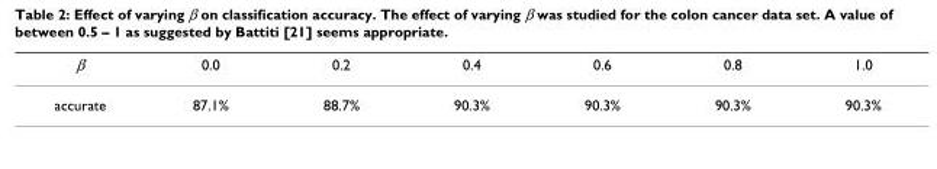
<table><thead><tr><td>β</td><td>0.0</td><td>0.2</td><td>0.4</td><td>0.6</td><td>0.8</td><td>1.0</td></tr></thead><tbody><tr><td>accurate</td><td>87.1%</td><td>88.7%</td><td>90.3%</td><td>90.3%</td><td>90.3%</td><td>90.3%</td></tr></tbody></table>